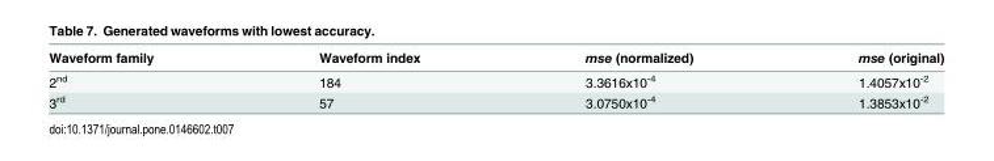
<table><thead><tr><td>Waveform family</td><td>Waveform index</td><td>mse (normalized)</td><td>mse (original)</td></tr></thead><tbody><tr><td>2<sup>nd</sup></td><td>184</td><td>3.3616x10<sup>-4</sup></td><td>1.4057x10<sup>-2</sup></td></tr><tr><td>3<sup>rd</sup></td><td>57</td><td>3.0750x10<sup>-4</sup></td><td>1.3853x10<sup>-2</sup></td></tr></tbody></table>